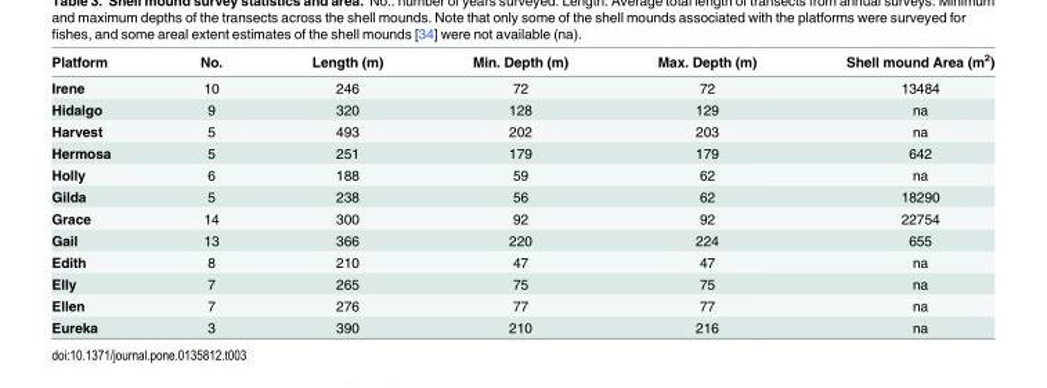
<table><thead><tr><td>Platform</td><td>No.</td><td>Length (m)</td><td>Min. Depth (m)</td><td>Max. Depth (m)</td><td>Shell mound Area (m<sup>2</sup>)</td></tr></thead><tbody><tr><td>Irene</td><td>10</td><td>246</td><td>72</td><td>72</td><td>13484</td></tr><tr><td>Hidalgo</td><td>9</td><td>320</td><td>128</td><td>129</td><td>na</td></tr><tr><td>Harvest</td><td>5</td><td>493</td><td>202</td><td>203</td><td>na</td></tr><tr><td>Hermosa</td><td>5</td><td>251</td><td>179</td><td>179</td><td>642</td></tr><tr><td>Holly</td><td>6</td><td>188</td><td>59</td><td>62</td><td>na</td></tr><tr><td>Gilda</td><td>5</td><td>238</td><td>56</td><td>62</td><td>18290</td></tr><tr><td>Grace</td><td>14</td><td>300</td><td>92</td><td>92</td><td>22754</td></tr><tr><td>Gail</td><td>13</td><td>366</td><td>220</td><td>224</td><td>655</td></tr><tr><td>Edith</td><td>8</td><td>210</td><td>47</td><td>47</td><td>na</td></tr><tr><td>Elly</td><td>7</td><td>265</td><td>75</td><td>75</td><td>na</td></tr><tr><td>Ellen</td><td>7</td><td>276</td><td>77</td><td>77</td><td>na</td></tr><tr><td>Eureka</td><td>3</td><td>390</td><td>210</td><td>216</td><td>na</td></tr></tbody></table>